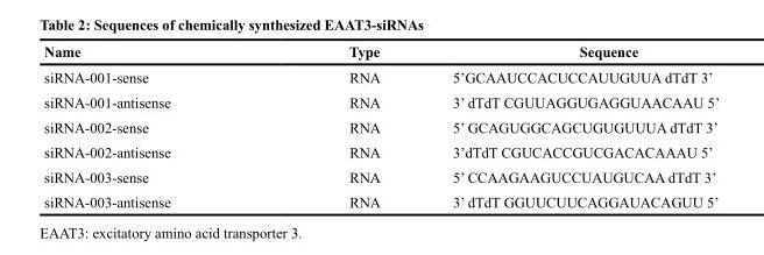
<table><thead><tr><td>Name</td><td>Type</td><td>Sequence</td></tr></thead><tbody><tr><td>siRNA-001-sense</td><td>RNA</td><td>5’GCAAUCCACUCCAUUGUUA dTdT 3’</td></tr><tr><td>siRNA-001-antisense</td><td>RNA</td><td>3’ dTdT CGUUAGGUGAGGUAACAAU 5’</td></tr><tr><td>siRNA-002-sense</td><td>RNA</td><td>5’ GCAGUGGCAGCUGUGUUUA dTdT 3’</td></tr><tr><td>siRNA-002-antisense</td><td>RNA</td><td>3’dTdT CGUCACCGUCGACACAAAU 5’</td></tr><tr><td>siRNA-003-sense</td><td>RNA</td><td>5’ CCAAGAAGUCCUAUGUCAA dTdT 3’</td></tr><tr><td>siRNA-003-antisense</td><td>RNA</td><td>3’ dTdT GGUUCUUCAGGAUACAGUU 5’</td></tr></tbody></table>